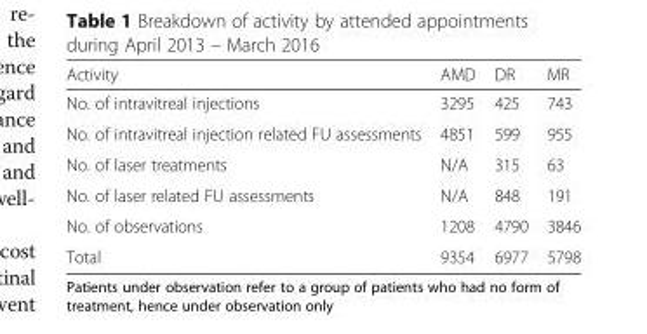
<table><thead><tr><td>Activity</td><td>AMD</td><td>DR</td><td>MR</td></tr></thead><tbody><tr><td>No. of intravitreal injections</td><td>3295</td><td>425</td><td>743</td></tr><tr><td>No. of intravitreal injection related FU assessments</td><td>4851</td><td>599</td><td>955</td></tr><tr><td>No. of laser treatments</td><td>N/A</td><td>315</td><td>63</td></tr><tr><td>No. of laser related FU assessments</td><td>N/A</td><td>848</td><td>191</td></tr><tr><td>No. of observations</td><td>1208</td><td>4790</td><td>3846</td></tr><tr><td>Total</td><td>9354</td><td>6977</td><td>5798</td></tr></tbody></table>